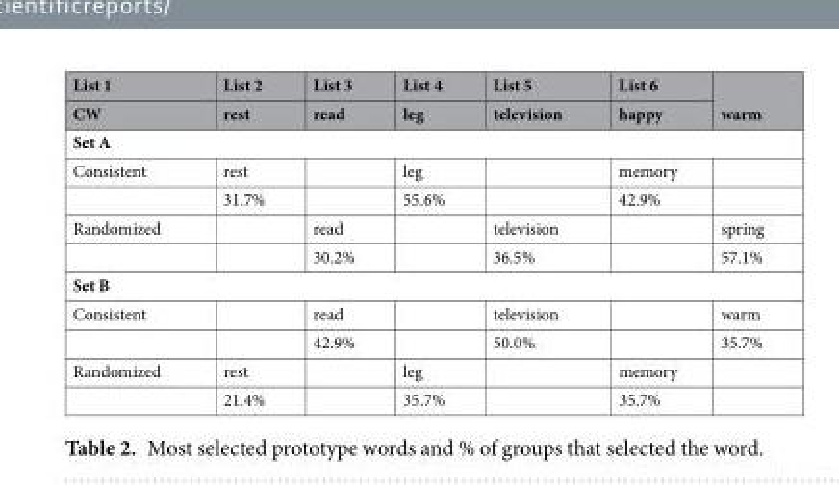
<table><thead><tr><td rowspan="2">List 1 CW</td><td rowspan="2">List 2 rest</td><td rowspan="2">List 3 read</td><td rowspan="2">List 4 leg</td><td rowspan="2">List 5 television</td><td rowspan="2">List 6 happy</td><td rowspan="2">warm</td></tr><tr></tr></thead><tbody><tr><td colspan="7">Set A</td></tr><tr><td rowspan="2">Consistent</td><td>rest</td><td></td><td>leg</td><td></td><td>memory</td><td></td></tr><tr><td>31.7%</td><td></td><td>55.6%</td><td></td><td>42.9%</td><td></td></tr><tr><td rowspan="2">Randomized</td><td></td><td>read</td><td></td><td>television</td><td></td><td>spring</td></tr><tr><td></td><td>30.2%</td><td></td><td>36.5%</td><td></td><td>57.1%</td></tr><tr><td colspan="7">Set B</td></tr><tr><td rowspan="2">Consistent</td><td></td><td>read</td><td></td><td>television</td><td></td><td>warm</td></tr><tr><td></td><td>42.9%</td><td></td><td>50.0%</td><td></td><td>35.7%</td></tr><tr><td rowspan="2">Randomized</td><td>rest</td><td></td><td>leg</td><td></td><td>memory</td><td></td></tr><tr><td>21.4%</td><td></td><td>35.7%</td><td></td><td>35.7%</td><td></td></tr></tbody></table>